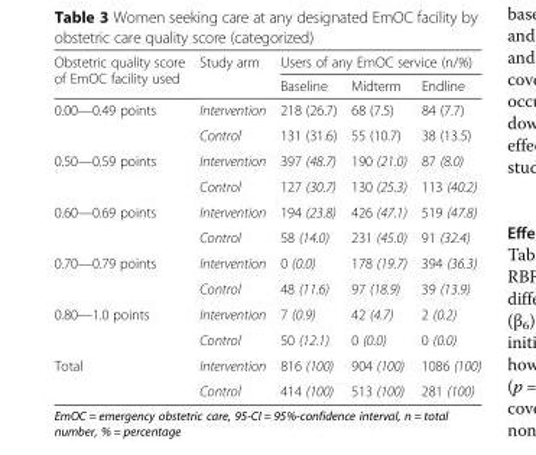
<table><thead><tr><td rowspan="2">Obstetric quality score of EmOC facility used</td><td rowspan="2">Study arm</td><td colspan="3">Users of any EmOC service (n/%)</td></tr><tr><td>Baseline</td><td>Midterm</td><td>Endline</td></tr></thead><tbody><tr><td rowspan="2">0.00—0.49 points</td><td>Intervention</td><td>218 (26.7)</td><td>68 (7.5)</td><td>84 (7.7)</td></tr><tr><td>Control</td><td>131 (31.6)</td><td>55 (10.7)</td><td>38 (13.5)</td></tr><tr><td rowspan="2">0.50—0.59 points</td><td>Intervention</td><td>397 (48.7)</td><td>190 (21.0)</td><td>87 (8.0)</td></tr><tr><td>Control</td><td>127 (30.7)</td><td>130 (25.3)</td><td>113 (40.2)</td></tr><tr><td rowspan="2">0.60—0.69 points</td><td>Intervention</td><td>194 (23.8)</td><td>426 (47.1)</td><td>519 (47.8)</td></tr><tr><td>Control</td><td>58 (14.0)</td><td>231 (45.0)</td><td>91 (32.4)</td></tr><tr><td rowspan="2">0.70—0.79 points</td><td>Intervention</td><td>0 (0.0)</td><td>178 (19.7)</td><td>394 (36.3)</td></tr><tr><td>Control</td><td>48 (11.6)</td><td>97 (18.9)</td><td>39 (13.9)</td></tr><tr><td rowspan="2">0.80—1.0 points</td><td>Intervention</td><td>7 (0.9)</td><td>42 (4.7)</td><td>2 (0.2)</td></tr><tr><td>Control</td><td>50 (12.1)</td><td>0 (0.0)</td><td>0 (0.0)</td></tr><tr><td rowspan="2">Total</td><td>Intervention</td><td>816 (100)</td><td>904 (100)</td><td>1086 (100)</td></tr><tr><td>Control</td><td>414 (100)</td><td>513 (100)</td><td>281 (100)</td></tr></tbody></table>